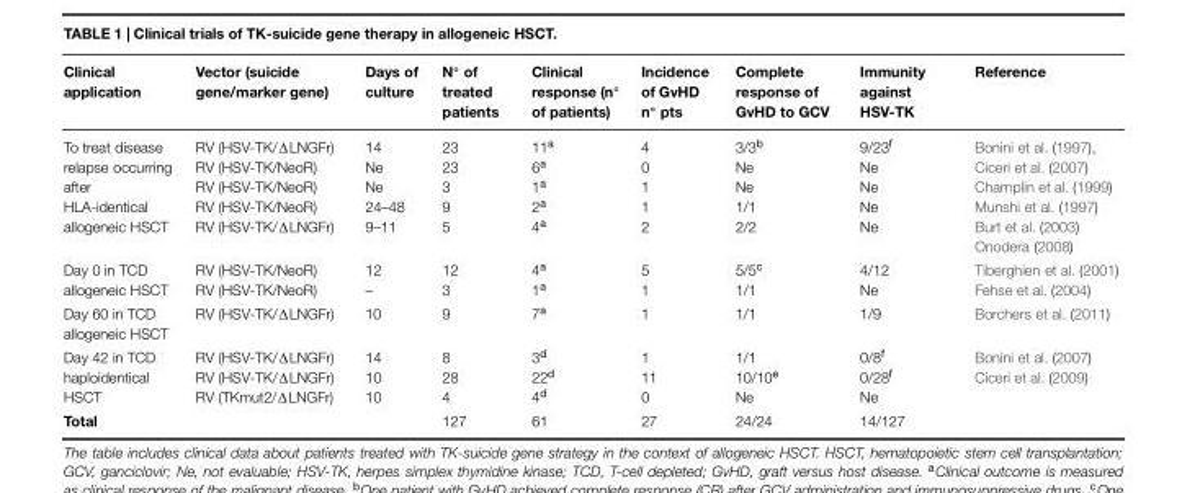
<table><thead><tr><td>Clinical application</td><td>Vector (suicide gene/marker gene)</td><td>Days of culture</td><td>N◦ of treated patients</td><td>Clinical response (n◦ of patients)</td><td>Incidence of GvHD n◦ pts</td><td>Complete response of GvHD to GCV</td><td>Immunity against HSV-TK</td><td>Reference</td></tr></thead><tbody><tr><td>To treat disease relapse occurring after HLA-identical allogeneic HSCT</td><td>RV (HSV-TK/ΔLNGFr) RV (HSV-TK/NeoR) RV (HSV-TK/NeoR) RV (HSV-TK/NeoR) RV (HSV-TK/ΔLNGFr)</td><td>14 Ne Ne 24–48 9–11</td><td>23 23 3 9 5</td><td>11<sup>a</sup> 6<sup>a</sup> 1<sup>a</sup> 2<sup>a</sup> 4<sup>a</sup></td><td>4 0 1 1 2</td><td>3/3<sup>b</sup> Ne Ne 1/1 2/2</td><td>9/23<sup>f</sup> Ne Ne Ne Ne</td><td>Bonini et al. (1997), Ciceri et al. (2007) Champlin et al. (1999) Munshi et al. (1997) Burt et al. (2003) Onodera (2008)</td></tr><tr><td>Day 0 in TCD allogeneic HSCT</td><td>RV (HSV-TK/NeoR) RV (HSV-TK/NeoR)</td><td>12 –</td><td>12 3</td><td>4<sup>a</sup> 1<sup>a</sup></td><td>5 1</td><td>5/5<sup>c</sup> 1/1</td><td>4/12 Ne</td><td>Tiberghien et al. (2001) Fehse et al. (2004)</td></tr><tr><td>Day 60 in TCD allogeneic HSCT</td><td>RV (HSV-TK/ΔLNGFr)</td><td>10</td><td>9</td><td>7<sup>a</sup></td><td>1</td><td>1/1</td><td>1/9</td><td>Borchers et al. (2011)</td></tr><tr><td>Day 42 in TCD haploidentical HSCT</td><td>RV (HSV-TK/ΔLNGFr) RV (HSV-TK/ΔLNGFr) RV (TKmut2/ΔLNGFr)</td><td>14 10 10</td><td>8 28 4</td><td>3<sup>d</sup> 22<sup>d</sup> 4<sup>d</sup></td><td>1 11 0</td><td>1/1 10/10<sup>e</sup> Ne</td><td>0/8<sup>f</sup> 0/28<sup>f</sup> Ne</td><td>Bonini et al. (2007) Ciceri et al. (2009)</td></tr><tr><td>Total</td><td></td><td></td><td>127</td><td>61</td><td>27</td><td>24/24</td><td>14/127</td><td></td></tr></tbody></table>